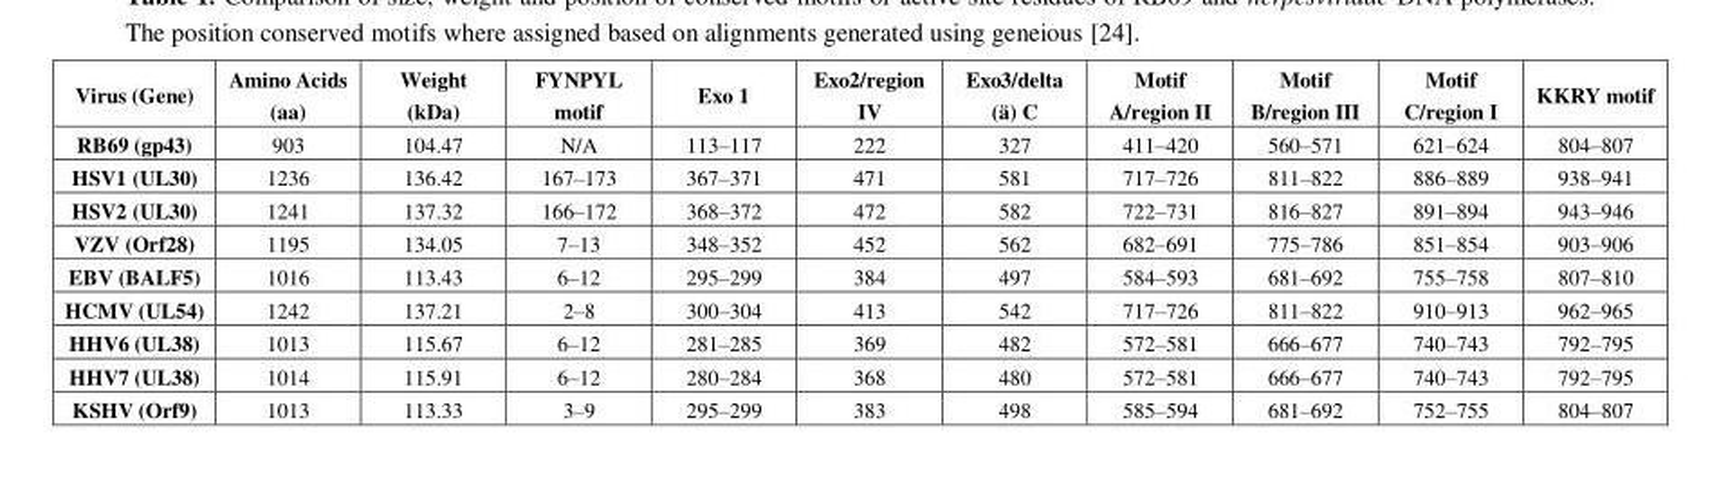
<table><thead><tr><td>Virus (Gene)</td><td>Amino Acids (aa)</td><td>Weight (kDa)</td><td>FYNPYL motif</td><td>Exo 1</td><td>Exo2/region IV</td><td>Exo3/delta (ä) C</td><td>Motif A/region II</td><td>Motif B/region III</td><td>Motif C/region I</td><td>KKRY motif</td></tr></thead><tbody><tr><td>RB69 (gp43)</td><td>903</td><td>104.47</td><td>N/A</td><td>113–117</td><td>222</td><td>327</td><td>411–420</td><td>560–571</td><td>621–624</td><td>804–807</td></tr><tr><td>HSV1 (UL30)</td><td>1236</td><td>136.42</td><td>167–173</td><td>367–371</td><td>471</td><td>581</td><td>717–726</td><td>811–822</td><td>886–889</td><td>938–941</td></tr><tr><td>HSV2 (UL30)</td><td>1241</td><td>137.32</td><td>166–172</td><td>368–372</td><td>472</td><td>582</td><td>722–731</td><td>816–827</td><td>891–894</td><td>943–946</td></tr><tr><td>VZV (Orf28)</td><td>1195</td><td>134.05</td><td>7–13</td><td>348–352</td><td>452</td><td>562</td><td>682–691</td><td>775–786</td><td>851–854</td><td>903–906</td></tr><tr><td>EBV (BALF5)</td><td>1016</td><td>113.43</td><td>6–12</td><td>295–299</td><td>384</td><td>497</td><td>584–593</td><td>681–692</td><td>755–758</td><td>807–810</td></tr><tr><td>HCMV (UL54)</td><td>1242</td><td>137.21</td><td>2–8</td><td>300–304</td><td>413</td><td>542</td><td>717–726</td><td>811–822</td><td>910–913</td><td>962–965</td></tr><tr><td>HHV6 (UL38)</td><td>1013</td><td>115.67</td><td>6–12</td><td>281–285</td><td>369</td><td>482</td><td>572–581</td><td>666–677</td><td>740–743</td><td>792–795</td></tr><tr><td>HHV7 (UL38)</td><td>1014</td><td>115.91</td><td>6–12</td><td>280–284</td><td>368</td><td>480</td><td>572–581</td><td>666–677</td><td>740–743</td><td>792–795</td></tr><tr><td>KSHV (Orf9)</td><td>1013</td><td>113.33</td><td>3–9</td><td>295–299</td><td>383</td><td>498</td><td>585–594</td><td>681–692</td><td>752–755</td><td>804–807</td></tr></tbody></table>